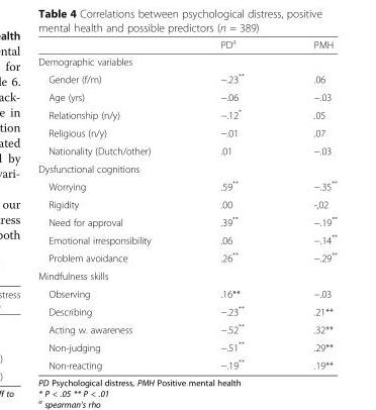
<table><thead><tr><td></td><td>PD<sup>a</sup></td><td>PMH</td></tr></thead><tbody><tr><td colspan="3">Demographic variables</td></tr><tr><td>Gender (f/m)</td><td>−.23**</td><td>.06</td></tr><tr><td>Age (yrs)</td><td>−.06</td><td>−.03</td></tr><tr><td>Relationship (n/y)</td><td>−.12*</td><td>.05</td></tr><tr><td>Religious (n/y)</td><td>−.01</td><td>.07</td></tr><tr><td>Nationality (Dutch/other)</td><td>.01</td><td>−.03</td></tr><tr><td colspan="3">Dysfunctional cognitions</td></tr><tr><td>Worrying</td><td>.59**</td><td>−.35**</td></tr><tr><td>Rigidity</td><td>.00</td><td>-,02</td></tr><tr><td>Need for approval</td><td>.39**</td><td>−.19**</td></tr><tr><td>Emotional irresponsibility</td><td>.06</td><td>−.14**</td></tr><tr><td>Problem avoidance</td><td>.26**</td><td>−.29**</td></tr><tr><td colspan="3">Mindfulness skills</td></tr><tr><td>Observing</td><td>.16**</td><td>−.03</td></tr><tr><td>Describing</td><td>−.23**</td><td>.21**</td></tr><tr><td>Acting w. awareness</td><td>−.52**</td><td>.32**</td></tr><tr><td>Non-judging</td><td>−.51**</td><td>.29**</td></tr><tr><td>Non-reacting</td><td>−.19**</td><td>.19**</td></tr></tbody></table>